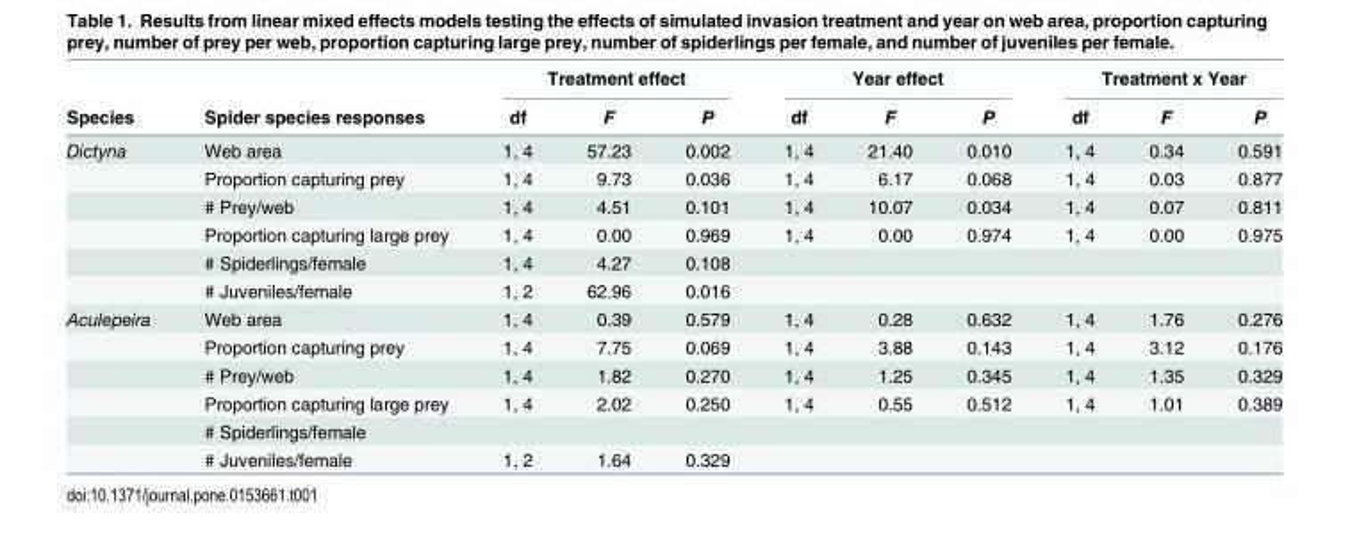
<table><thead><tr><td rowspan="2">Species</td><td rowspan="2">Spider species responses</td><td colspan="3">Treatment effect</td><td colspan="3">Year effect</td><td colspan="3">Treatment x Year</td></tr><tr><td>df</td><td>F</td><td>P</td><td>df</td><td>F</td><td>P</td><td>df</td><td>F</td><td>P</td></tr></thead><tbody><tr><td rowspan="6">Dictyna</td><td>Web area</td><td>1, 4</td><td>57.23</td><td>0.002</td><td>1, 4</td><td>21.40</td><td>0.010</td><td>1, 4</td><td>0.34</td><td>0.591</td></tr><tr><td>Proportion capturing prey</td><td>1, 4</td><td>9.73</td><td>0.036</td><td>1, 4</td><td>6.17</td><td>0.068</td><td>1, 4</td><td>0.03</td><td>0.877</td></tr><tr><td># Prey/web</td><td>1, 4</td><td>4.51</td><td>0.101</td><td>1, 4</td><td>10.07</td><td>0.034</td><td>1, 4</td><td>0.07</td><td>0.811</td></tr><tr><td>Proportion capturing large prey</td><td>1, 4</td><td>0.00</td><td>0.969</td><td>1, 4</td><td>0.00</td><td>0.974</td><td>1, 4</td><td>0.00</td><td>0.975</td></tr><tr><td># Spiderlings/female</td><td>1, 4</td><td>4.27</td><td>0.108</td><td></td><td></td><td></td><td></td><td></td><td></td></tr><tr><td># Juveniles/female</td><td>1, 2</td><td>62.96</td><td>0.016</td><td></td><td></td><td></td><td></td><td></td><td></td></tr><tr><td rowspan="6">Aculepeira</td><td>Web area</td><td>1, 4</td><td>0.39</td><td>0.579</td><td>1, 4</td><td>0.28</td><td>0.632</td><td>1, 4</td><td>1.76</td><td>0.276</td></tr><tr><td>Proportion capturing prey</td><td>1, 4</td><td>7.75</td><td>0.069</td><td>1, 4</td><td>3.88</td><td>0.143</td><td>1, 4</td><td>3.12</td><td>0.176</td></tr><tr><td># Prey/web</td><td>1, 4</td><td>1.82</td><td>0.270</td><td>1, 4</td><td>1.25</td><td>0.345</td><td>1, 4</td><td>1.35</td><td>0.329</td></tr><tr><td>Proportion capturing large prey</td><td>1, 4</td><td>2.02</td><td>0.250</td><td>1, 4</td><td>0.55</td><td>0.512</td><td>1, 4</td><td>1.01</td><td>0.389</td></tr><tr><td># Spiderlings/female</td><td></td><td></td><td></td><td></td><td></td><td></td><td></td><td></td><td></td></tr><tr><td># Juveniles/female</td><td>1, 2</td><td>1.64</td><td>0.329</td><td></td><td></td><td></td><td></td><td></td><td></td></tr></tbody></table>